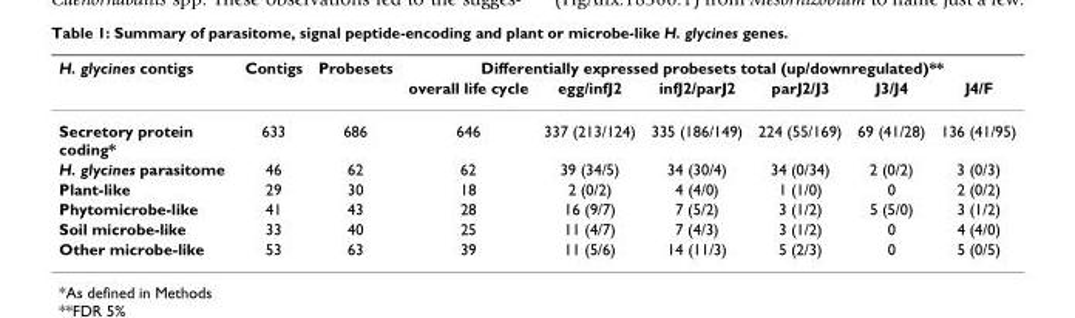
<table><thead><tr><td rowspan="2">H. glycines contigs</td><td rowspan="2">Contigs</td><td rowspan="2">Probesets</td><td colspan="6">Differentially expressed probesets total (up/downregulated)**</td></tr><tr><td>overall life cycle</td><td>egg/infJ2</td><td>infJ2/parJ2</td><td>parJ2/J3</td><td>J3/J4</td><td>J4/F</td></tr></thead><tbody><tr><td>Secretory protein coding*</td><td>633</td><td>686</td><td>646</td><td>337 (213/124)</td><td>335 (186/149)</td><td>224 (55/169)</td><td>69 (41/28)</td><td>136 (41/95)</td></tr><tr><td>H. glycines parasitome</td><td>46</td><td>62</td><td>62</td><td>39 (34/5)</td><td>34 (30/4)</td><td>34 (0/34)</td><td>2 (0/2)</td><td>3 (0/3)</td></tr><tr><td>Plant-like</td><td>29</td><td>30</td><td>18</td><td>2 (0/2)</td><td>4 (4/0)</td><td>1 (1/0)</td><td>0</td><td>2 (0/2)</td></tr><tr><td>Phytomicrobe-like</td><td>41</td><td>43</td><td>28</td><td>16 (9/7)</td><td>7 (5/2)</td><td>3 (1/2)</td><td>5 (5/0)</td><td>3 (1/2)</td></tr><tr><td>Soil microbe-like</td><td>33</td><td>40</td><td>25</td><td>11 (4/7)</td><td>7 (4/3)</td><td>3 (1/2)</td><td>0</td><td>4 (4/0)</td></tr><tr><td>Other microbe-like</td><td>53</td><td>63</td><td>39</td><td>11 (5/6)</td><td>14 (11/3)</td><td>5 (2/3)</td><td>0</td><td>5 (0/5)</td></tr></tbody></table>